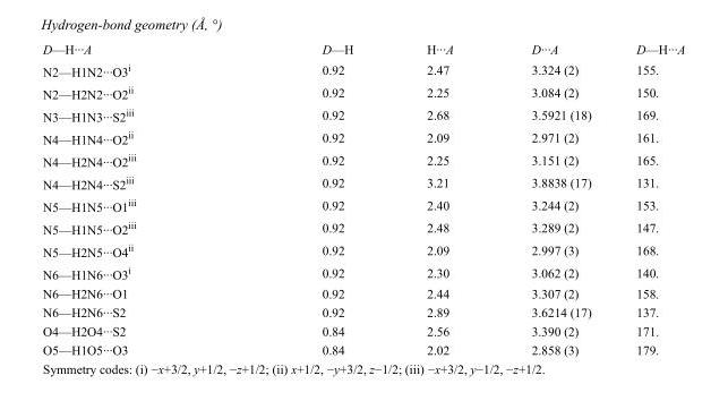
<table><tbody><tr><td>D—H···A</td><td>D—H</td><td>H···A</td><td>D···A</td><td>D—H···A</td></tr><tr><td>N2—H1N2···O3<sup>i</sup></td><td>0.92</td><td>2.47</td><td>3.324 (2)</td><td>155.</td></tr><tr><td>N2—H2N2···O2<sup>ii</sup></td><td>0.92</td><td>2.25</td><td>3.084 (2)</td><td>150.</td></tr><tr><td>N3—H1N3···S2<sup>iii</sup></td><td>0.92</td><td>2.68</td><td>3.5921 (18)</td><td>169.</td></tr><tr><td>N4—H1N4···O2<sup>ii</sup></td><td>0.92</td><td>2.09</td><td>2.971 (2)</td><td>161.</td></tr><tr><td>N4—H2N4···O2<sup>iii</sup></td><td>0.92</td><td>2.25</td><td>3.151 (2)</td><td>165.</td></tr><tr><td>N4—H2N4···S2<sup>iii</sup></td><td>0.92</td><td>3.21</td><td>3.8838 (17)</td><td>131.</td></tr><tr><td>N5—H1N5···O1<sup>iii</sup></td><td>0.92</td><td>2.40</td><td>3.244 (2)</td><td>153.</td></tr><tr><td>N5—H1N5···O2<sup>iii</sup></td><td>0.92</td><td>2.48</td><td>3.289 (2)</td><td>147.</td></tr><tr><td>N5—H2N5···O4<sup>ii</sup></td><td>0.92</td><td>2.09</td><td>2.997 (3)</td><td>168.</td></tr><tr><td>N6—H1N6···O3<sup>i</sup></td><td>0.92</td><td>2.30</td><td>3.062 (2)</td><td>140.</td></tr><tr><td>N6—H2N6···O1</td><td>0.92</td><td>2.44</td><td>3.307 (2)</td><td>158.</td></tr><tr><td>N6—H2N6···S2</td><td>0.92</td><td>2.89</td><td>3.6214 (17)</td><td>137.</td></tr><tr><td>O4—H2O4···S2</td><td>0.84</td><td>2.56</td><td>3.390 (2)</td><td>171.</td></tr><tr><td>O5—H1O5···O3</td><td>0.84</td><td>2.02</td><td>2.858 (3)</td><td>179.</td></tr></tbody></table>